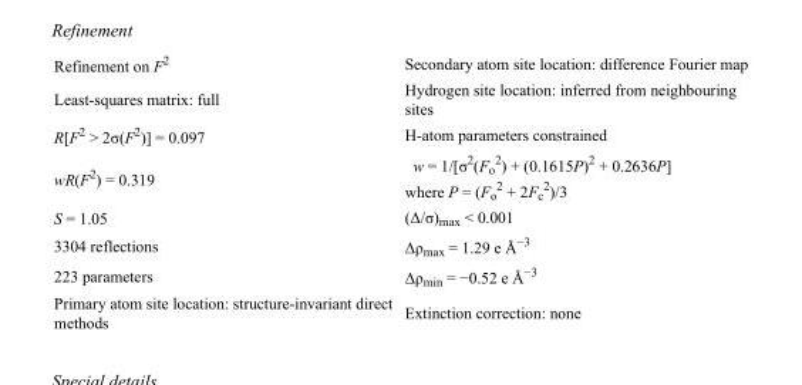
<table><tbody><tr><td>Refinement on F<sup>2</sup></td><td>Secondary atom site location: difference Fourier map</td></tr><tr><td>Least-squares matrix: full</td><td>Hydrogen site location: inferred from neighbouring sites</td></tr><tr><td>R[F<sup>2</sup> &gt; 2σ(F<sup>2</sup>)] = 0.097</td><td>H-atom parameters constrained</td></tr><tr><td>wR(F<sup>2</sup>) = 0.319</td><td>w = 1/[σ<sup>2</sup>(F<sub>o</sub> <sup>2</sup>) + (0.1615P)<sup>2</sup> + 0.2636P] where P = (F<sub>o</sub> <sup>2</sup> + 2F<sub>c</sub> <sup>2</sup>)/3</td></tr><tr><td>S = 1.05</td><td>(Δ/σ)<sub>max</sub> &lt; 0.001</td></tr><tr><td>3304 reflections</td><td>Δρ<sub>max</sub> = 1.29 e Å<sup>−3</sup></td></tr><tr><td>223 parameters</td><td>Δρ<sub>min</sub> = −0.52 e Å<sup>−3</sup></td></tr><tr><td>Primary atom site location: structure-invariant direct methods</td><td>Extinction correction: none</td></tr></tbody></table>